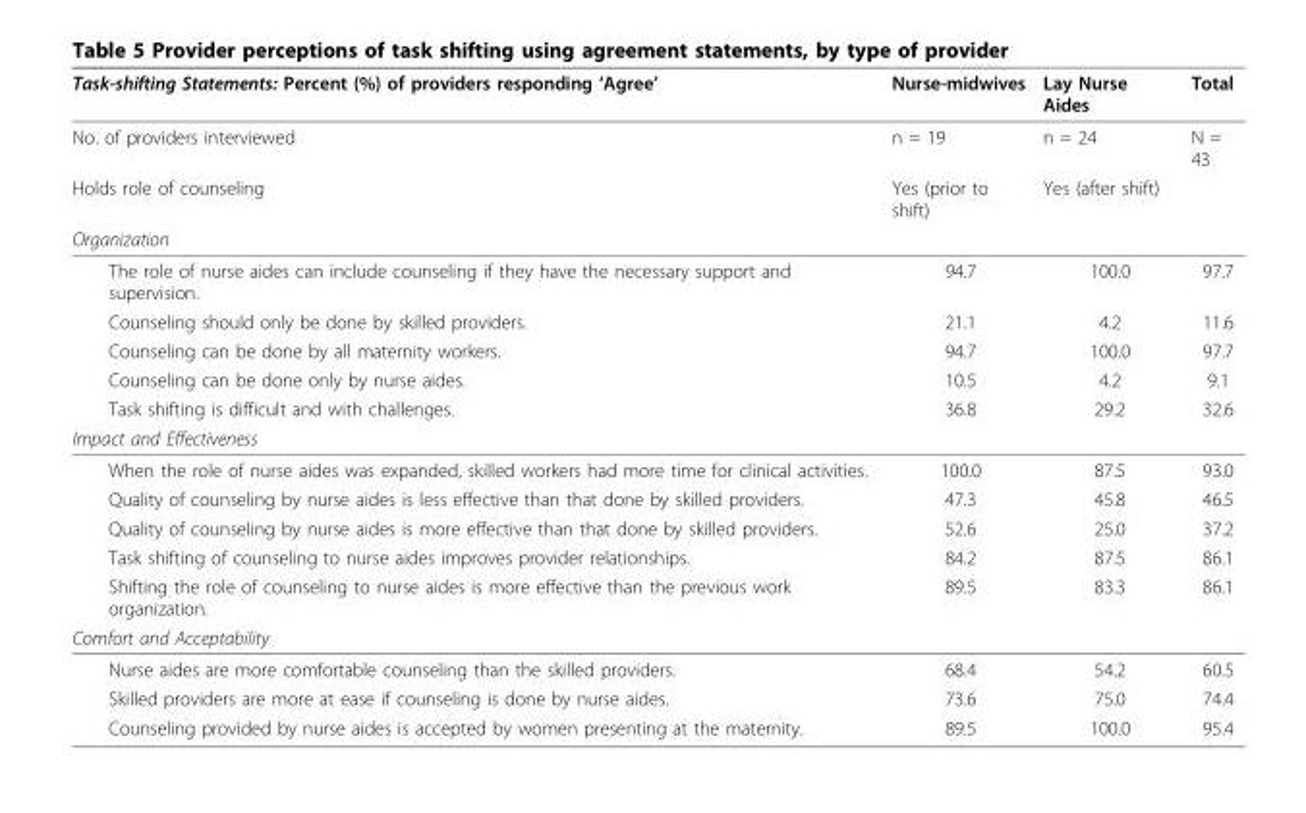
<table><thead><tr><td>Task-shifting Statements: Percent (%) of providers responding ‘Agree’</td><td>Nurse-midwives</td><td>Lay Nurse Aides</td><td>Total</td></tr></thead><tbody><tr><td>No. of providers interviewed</td><td>n = 19</td><td>n = 24</td><td>N = 43</td></tr><tr><td>Holds role of counseling</td><td>Yes (prior to shift)</td><td>Yes (after shift)</td><td></td></tr><tr><td colspan="4">Organization</td></tr><tr><td>The role of nurse aides can include counseling if they have the necessary support and supervision.</td><td>94.7</td><td>100.0</td><td>97.7</td></tr><tr><td>Counseling should only be done by skilled providers.</td><td>21.1</td><td>4.2</td><td>11.6</td></tr><tr><td>Counseling can be done by all maternity workers.</td><td>94.7</td><td>100.0</td><td>97.7</td></tr><tr><td>Counseling can be done only by nurse aides.</td><td>10.5</td><td>4.2</td><td>9.1</td></tr><tr><td>Task shifting is difficult and with challenges.</td><td>36.8</td><td>29.2</td><td>32.6</td></tr><tr><td colspan="4">Impact and Effectiveness</td></tr><tr><td>When the role of nurse aides was expanded, skilled workers had more time for clinical activities.</td><td>100.0</td><td>87.5</td><td>93.0</td></tr><tr><td>Quality of counseling by nurse aides is less effective than that done by skilled providers.</td><td>47.3</td><td>45.8</td><td>46.5</td></tr><tr><td>Quality of counseling by nurse aides is more effective than that done by skilled providers.</td><td>52.6</td><td>25.0</td><td>37.2</td></tr><tr><td>Task shifting of counseling to nurse aides improves provider relationships.</td><td>84.2</td><td>87.5</td><td>86.1</td></tr><tr><td>Shifting the role of counseling to nurse aides is more effective than the previous work organization.</td><td>89.5</td><td>83.3</td><td>86.1</td></tr><tr><td colspan="4">Comfort and Acceptability</td></tr><tr><td>Nurse aides are more comfortable counseling than the skilled providers.</td><td>68.4</td><td>54.2</td><td>60.5</td></tr><tr><td>Skilled providers are more at ease if counseling is done by nurse aides.</td><td>73.6</td><td>75.0</td><td>74.4</td></tr><tr><td>Counseling provided by nurse aides is accepted by women presenting at the maternity.</td><td>89.5</td><td>100.0</td><td>95.4</td></tr></tbody></table>